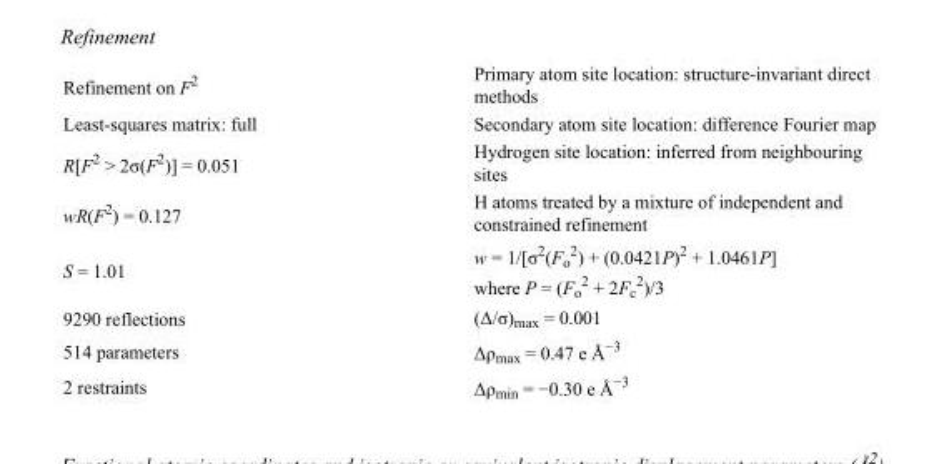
<table><tbody><tr><td>Refinement on F<sup>2</sup></td><td>Primary atom site location: structure-invariant direct methods</td></tr><tr><td>Least-squares matrix: full</td><td>Secondary atom site location: difference Fourier map</td></tr><tr><td>R[F<sup>2</sup> &gt; 2σ(F<sup>2</sup>)] = 0.051</td><td>Hydrogen site location: inferred from neighbouring sites</td></tr><tr><td>wR(F<sup>2</sup>) = 0.127</td><td>H atoms treated by a mixture of independent and constrained refinement</td></tr><tr><td>S = 1.01</td><td>w = 1/[σ<sup>2</sup>(F<sub>o</sub> <sup>2</sup>) + (0.0421P)<sup>2</sup> + 1.0461P] where P = (F<sub>o</sub> <sup>2</sup> + 2F<sub>c</sub> <sup>2</sup>)/3</td></tr><tr><td>9290 reflections</td><td>(Δ/σ)<sub>max</sub> = 0.001</td></tr><tr><td>514 parameters</td><td>Δρ<sub>max</sub> = 0.47 e Å<sup>−3</sup></td></tr><tr><td>2 restraints</td><td>Δρ<sub>min</sub> = −0.30 e Å<sup>−3</sup></td></tr></tbody></table>